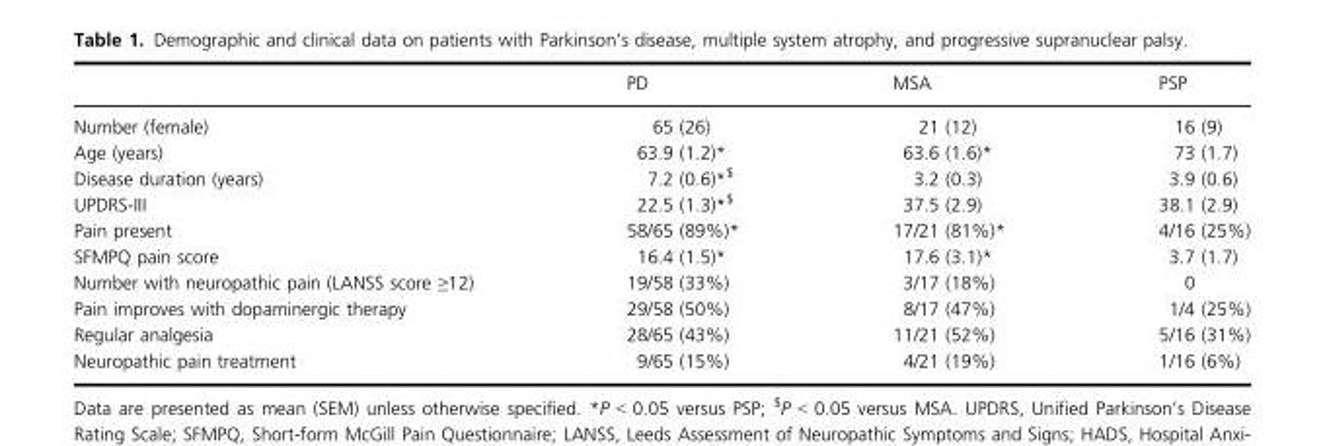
<table><thead><tr><td></td><td>PD</td><td>MSA</td><td>PSP</td></tr></thead><tbody><tr><td>Number (female)</td><td>65 (26)</td><td>21 (12)</td><td>16 (9)</td></tr><tr><td>Age (years)</td><td>63.9 (1.2)*</td><td>63.6 (1.6)*</td><td>73 (1.7)</td></tr><tr><td>Disease duration (years)</td><td>7.2 (0.6)*$</td><td>3.2 (0.3)</td><td>3.9 (0.6)</td></tr><tr><td>UPDRS-III</td><td>22.5 (1.3)*$</td><td>37.5 (2.9)</td><td>38.1 (2.9)</td></tr><tr><td>Pain present</td><td>58/65 (89%)*</td><td>17/21 (81%)*</td><td>4/16 (25%)</td></tr><tr><td>SFMPQ pain score</td><td>16.4 (1.5)*</td><td>17.6 (3.1)*</td><td>3.7 (1.7)</td></tr><tr><td>Number with neuropathic pain (LANSS score ≥12)</td><td>19/58 (33%)</td><td>3/17 (18%)</td><td>0</td></tr><tr><td>Pain improves with dopaminergic therapy</td><td>29/58 (50%)</td><td>8/17 (47%)</td><td>1/4 (25%)</td></tr><tr><td>Regular analgesia</td><td>28/65 (43%)</td><td>11/21 (52%)</td><td>5/16 (31%)</td></tr><tr><td>Neuropathic pain treatment</td><td>9/65 (15%)</td><td>4/21 (19%)</td><td>1/16 (6%)</td></tr></tbody></table>